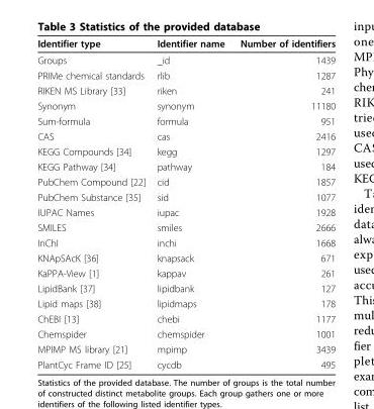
<table><thead><tr><td>Identifier type</td><td>Identifier name</td><td>Number of identifiers</td></tr></thead><tbody><tr><td>Groups</td><td>_id</td><td>1439</td></tr><tr><td>PRIMe chemical standards</td><td>rlib</td><td>1287</td></tr><tr><td>RIKEN MS Library [33]</td><td>riken</td><td>241</td></tr><tr><td>Synonym</td><td>synonym</td><td>11180</td></tr><tr><td>Sum-formula</td><td>formula</td><td>951</td></tr><tr><td>CAS</td><td>cas</td><td>2416</td></tr><tr><td>KEGG Compounds [34]</td><td>kegg</td><td>1297</td></tr><tr><td>KEGG Pathway [34]</td><td>pathway</td><td>184</td></tr><tr><td>PubChem Compound [22]</td><td>cid</td><td>1857</td></tr><tr><td>PubChem Substance [35]</td><td>sid</td><td>1077</td></tr><tr><td>IUPAC Names</td><td>iupac</td><td>1928</td></tr><tr><td>SMILES</td><td>smiles</td><td>2666</td></tr><tr><td>InChI</td><td>inchi</td><td>1668</td></tr><tr><td>KNApSAcK [36]</td><td>knapsack</td><td>671</td></tr><tr><td>KaPPA-View [1]</td><td>kappav</td><td>261</td></tr><tr><td>LipidBank [37]</td><td>lipidbank</td><td>127</td></tr><tr><td>Lipid maps [38]</td><td>lipidmaps</td><td>178</td></tr><tr><td>ChEBI [13]</td><td>chebi</td><td>1177</td></tr><tr><td>Chemspider</td><td>chemspider</td><td>1001</td></tr><tr><td>MPIMP MS library [21]</td><td>mpimp</td><td>3439</td></tr><tr><td>PlantCyc Frame ID [25]</td><td>cycdb</td><td>495</td></tr></tbody></table>